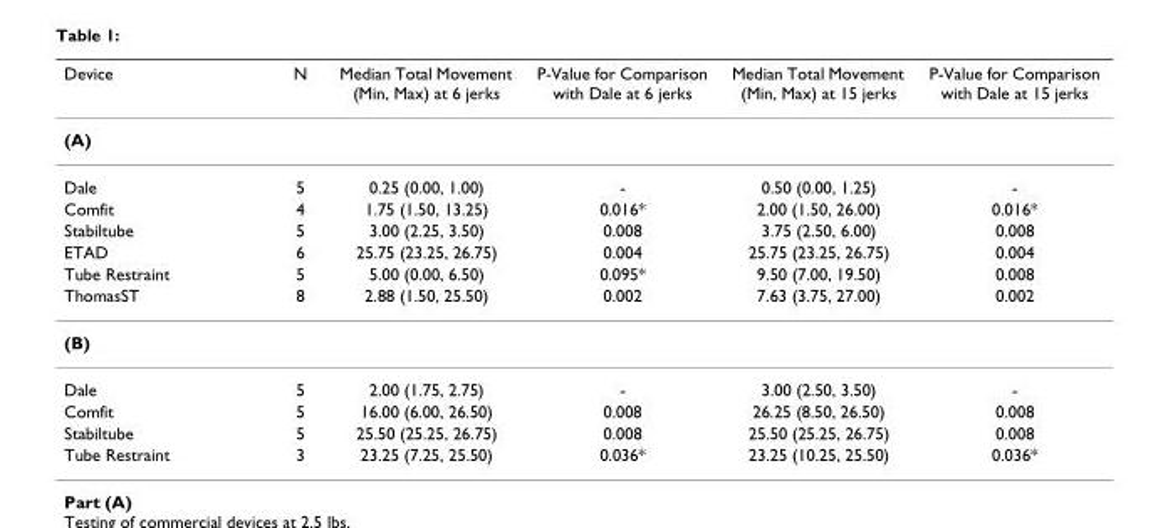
<table><thead><tr><td>Device</td><td>N</td><td>Median Total Movement (Min, Max) at 6 jerks</td><td>P-Value for Comparison with Dale at 6 jerks</td><td>Median Total Movement (Min, Max) at 15 jerks</td><td>P-Value for Comparison with Dale at 15 jerks</td></tr></thead><tbody><tr><td colspan="6">(A)</td></tr><tr><td>Dale</td><td>5</td><td>0.25 (0.00, 1.00)</td><td>-</td><td>0.50 (0.00, 1.25)</td><td>-</td></tr><tr><td>Comfit</td><td>4</td><td>1.75 (1.50, 13.25)</td><td>0.016*</td><td>2.00 (1.50, 26.00)</td><td>0.016*</td></tr><tr><td>Stabiltube</td><td>5</td><td>3.00 (2.25, 3.50)</td><td>0.008</td><td>3.75 (2.50, 6.00)</td><td>0.008</td></tr><tr><td>ETAD</td><td>6</td><td>25.75 (23.25, 26.75)</td><td>0.004</td><td>25.75 (23.25, 26.75)</td><td>0.004</td></tr><tr><td>Tube Restraint</td><td>5</td><td>5.00 (0.00, 6.50)</td><td>0.095*</td><td>9.50 (7.00, 19.50)</td><td>0.008</td></tr><tr><td>ThomasST</td><td>8</td><td>2.88 (1.50, 25.50)</td><td>0.002</td><td>7.63 (3.75, 27.00)</td><td>0.002</td></tr><tr><td colspan="6">(B)</td></tr><tr><td>Dale</td><td>5</td><td>2.00 (1.75, 2.75)</td><td>-</td><td>3.00 (2.50, 3.50)</td><td>-</td></tr><tr><td>Comfit</td><td>5</td><td>16.00 (6.00, 26.50)</td><td>0.008</td><td>26.25 (8.50, 26.50)</td><td>0.008</td></tr><tr><td>Stabiltube</td><td>5</td><td>25.50 (25.25, 26.75)</td><td>0.008</td><td>25.50 (25.25, 26.75)</td><td>0.008</td></tr><tr><td>Tube Restraint</td><td>3</td><td>23.25 (7.25, 25.50)</td><td>0.036*</td><td>23.25 (10.25, 25.50)</td><td>0.036*</td></tr></tbody></table>